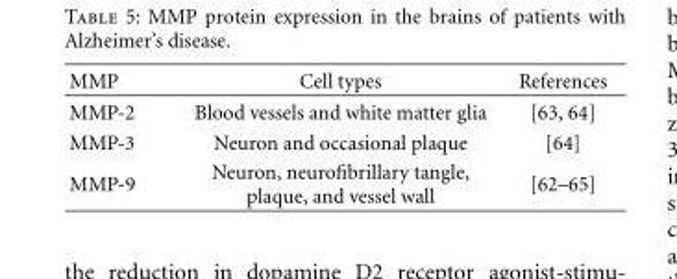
<table><thead><tr><td>MMP</td><td>Cell types</td><td>References</td></tr></thead><tbody><tr><td>MMP-2</td><td>Blood vessels and white matter glia</td><td>[63, 64]</td></tr><tr><td>MMP-3</td><td>Neuron and occasional plaque</td><td>[64]</td></tr><tr><td>MMP-9</td><td>Neuron, neurofibrillary tangle, plaque, and vessel wall</td><td>[62–65]</td></tr></tbody></table>